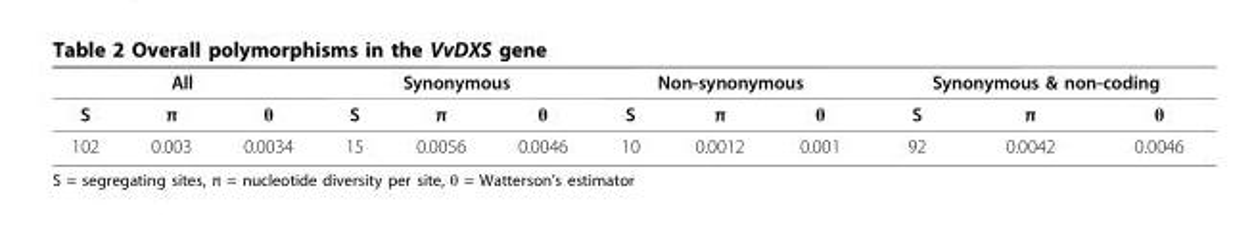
<table><thead><tr><td colspan="3">All</td><td colspan="3">Synonymous</td><td colspan="3">Non-synonymous</td><td colspan="3">Synonymous &amp; non-coding</td></tr><tr><td>S</td><td>π</td><td>θ</td><td>S</td><td>π</td><td>θ</td><td>S</td><td>π</td><td>θ</td><td>S</td><td>π</td><td>θ</td></tr></thead><tbody><tr><td>102</td><td>0.003</td><td>0.0034</td><td>15</td><td>0.0056</td><td>0.0046</td><td>10</td><td>0.0012</td><td>0.001</td><td>92</td><td>0.0042</td><td>0.0046</td></tr></tbody></table>